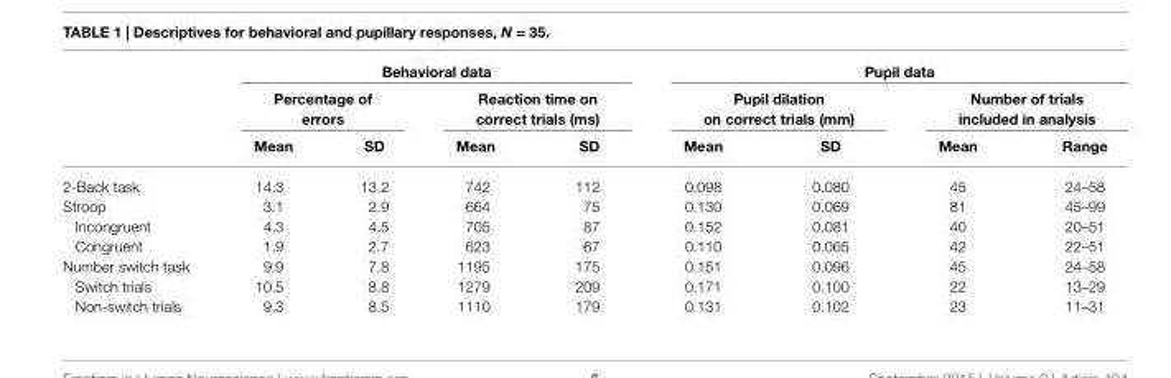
<table><thead><tr><td rowspan="3"></td><td colspan="4">Behavioral data</td><td colspan="4">Pupil data</td></tr><tr><td colspan="2">Percentage of errors</td><td colspan="2">Reaction time on correct trials (ms)</td><td colspan="2">Pupil dilation on correct trials (mm)</td><td colspan="2">Number of trials included in analysis</td></tr><tr><td>Mean</td><td>SD</td><td>Mean</td><td>SD</td><td>Mean</td><td>SD</td><td>Mean</td><td>Range</td></tr></thead><tbody><tr><td>2-Back task</td><td>14.3</td><td>13.2</td><td>742</td><td>112</td><td>0.098</td><td>0.080</td><td>45</td><td>24–58</td></tr><tr><td>Stroop</td><td>3.1</td><td>2.9</td><td>664</td><td>75</td><td>0.130</td><td>0.069</td><td>81</td><td>45–99</td></tr><tr><td>Incongruent</td><td>4.3</td><td>4.5</td><td>705</td><td>87</td><td>0.152</td><td>0.081</td><td>40</td><td>20–51</td></tr><tr><td>Congruent</td><td>1.9</td><td>2.7</td><td>623</td><td>67</td><td>0.110</td><td>0.065</td><td>42</td><td>22–51</td></tr><tr><td>Number switch task</td><td>9.9</td><td>7.8</td><td>1195</td><td>175</td><td>0.151</td><td>0.096</td><td>45</td><td>24–58</td></tr><tr><td>Switch trials</td><td>10.5</td><td>8.8</td><td>1279</td><td>209</td><td>0.171</td><td>0.100</td><td>22</td><td>13–29</td></tr><tr><td>Non-switch trials</td><td>9.3</td><td>8.5</td><td>1110</td><td>179</td><td>0.131</td><td>0.102</td><td>23</td><td>11–31</td></tr></tbody></table>